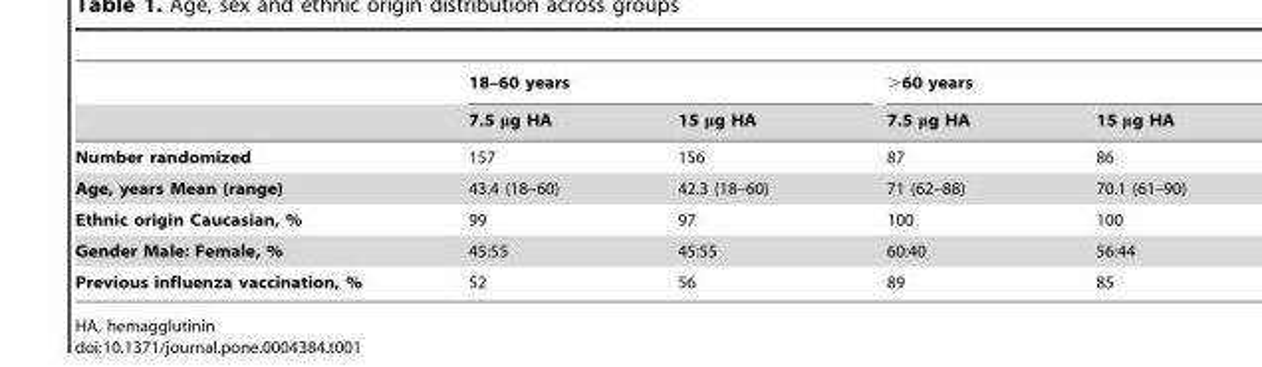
<table><thead><tr><td rowspan="2"></td><td colspan="2">18–60 years</td><td colspan="2">&gt;60 years</td></tr><tr><td>7.5 μg HA</td><td>15 μg HA</td><td>7.5 μg HA</td><td>15 μg HA</td></tr></thead><tbody><tr><td>Number randomized</td><td>157</td><td>156</td><td>87</td><td>86</td></tr><tr><td>Age, years Mean (range)</td><td>43.4 (18–60)</td><td>42.3 (18–60)</td><td>71 (62–88)</td><td>70.1 (61–90)</td></tr><tr><td>Ethnic origin Caucasian, %</td><td>99</td><td>97</td><td>100</td><td>100</td></tr><tr><td>Gender Male: Female, %</td><td>45:55</td><td>45:55</td><td>60:40</td><td>56:44</td></tr><tr><td>Previous influenza vaccination, %</td><td>52</td><td>56</td><td>89</td><td>85</td></tr></tbody></table>